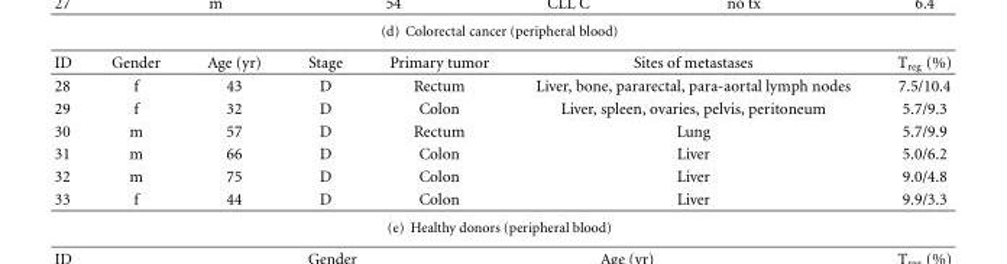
<table><thead><tr><td>ID</td><td>Gender</td><td>Age (yr)</td><td>Stage</td><td>Primary tumor</td><td>Sites of metastases</td><td>T<sub>reg</sub> (%)</td></tr></thead><tbody><tr><td>28</td><td>f</td><td>43</td><td>D</td><td>Rectum</td><td>Liver, bone, pararectal, para-aortal lymph nodes</td><td>7.5/10.4</td></tr><tr><td>29</td><td>f</td><td>32</td><td>D</td><td>Colon</td><td>Liver, spleen, ovaries, pelvis, peritoneum</td><td>5.7/9.3</td></tr><tr><td>30</td><td>m</td><td>57</td><td>D</td><td>Rectum</td><td>Lung</td><td>5.7/9.9</td></tr><tr><td>31</td><td>m</td><td>66</td><td>D</td><td>Colon</td><td>Liver</td><td>5.0/6.2</td></tr><tr><td>32</td><td>m</td><td>75</td><td>D</td><td>Colon</td><td>Liver</td><td>9.0/4.8</td></tr><tr><td>33</td><td>f</td><td>44</td><td>D</td><td>Colon</td><td>Liver</td><td>9.9/3.3</td></tr></tbody></table>